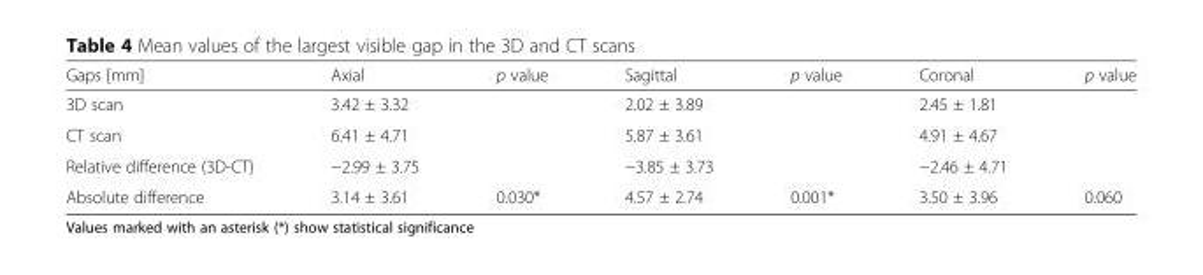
<table><thead><tr><td>Gaps [mm]</td><td>Axial</td><td>p value</td><td>Sagittal</td><td>p value</td><td>Coronal</td><td>p value</td></tr></thead><tbody><tr><td>3D scan</td><td>3.42 ± 3.32</td><td></td><td>2.02 ± 3.89</td><td></td><td>2.45 ± 1.81</td><td></td></tr><tr><td>CT scan</td><td>6.41 ± 4.71</td><td></td><td>5.87 ± 3.61</td><td></td><td>4.91 ± 4.67</td><td></td></tr><tr><td>Relative difference (3D-CT)</td><td>−2.99 ± 3.75</td><td></td><td>−3.85 ± 3.73</td><td></td><td>−2.46 ± 4.71</td><td></td></tr><tr><td>Absolute difference</td><td>3.14 ± 3.61</td><td>0.030*</td><td>4.57 ± 2.74</td><td>0.001*</td><td>3.50 ± 3.96</td><td>0.060</td></tr></tbody></table>